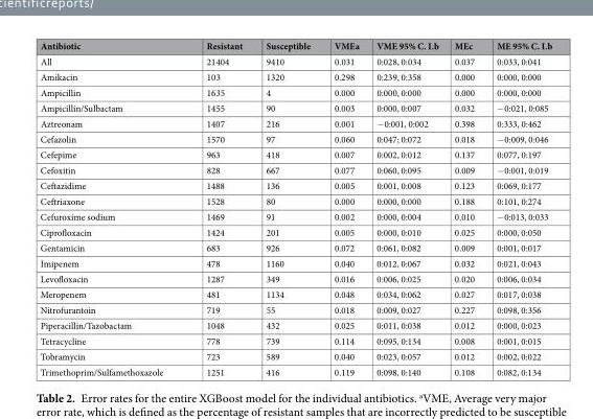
<table><thead><tr><td>Antibiotic</td><td>Resistant</td><td>Susceptible</td><td>VMEa</td><td>VME 95% C. I.b</td><td>MEc</td><td>ME 95% C. I.b</td></tr></thead><tbody><tr><td>All</td><td>21404</td><td>9410</td><td>0.031</td><td>0:028, 0:034</td><td>0.037</td><td>0:033, 0:041</td></tr><tr><td>Amikacin</td><td>103</td><td>1320</td><td>0.298</td><td>0:239, 0:358</td><td>0.000</td><td>0:000, 0:000</td></tr><tr><td>Ampicillin</td><td>1635</td><td>4</td><td>0.000</td><td>0:000, 0:000</td><td>0.000</td><td>0:000, 0:000</td></tr><tr><td>Ampicillin/Sulbactam</td><td>1455</td><td>90</td><td>0.003</td><td>0:000, 0:007</td><td>0.032</td><td>−0:021, 0:085</td></tr><tr><td>Aztreonam</td><td>1407</td><td>216</td><td>0.001</td><td>−0:001, 0:002</td><td>0.398</td><td>0:333, 0:462</td></tr><tr><td>Cefazolin</td><td>1570</td><td>97</td><td>0.060</td><td>0:047; 0:072</td><td>0.018</td><td>−0:009, 0:046</td></tr><tr><td>Cefepime</td><td>963</td><td>418</td><td>0.007</td><td>0:002, 0:012</td><td>0.137</td><td>0:077, 0:197</td></tr><tr><td>Cefoxitin</td><td>828</td><td>667</td><td>0.077</td><td>0:060, 0:095</td><td>0.009</td><td>−0:001, 0:019</td></tr><tr><td>Ceftazidime</td><td>1488</td><td>136</td><td>0.005</td><td>0:001, 0:008</td><td>0.123</td><td>0:069, 0:177</td></tr><tr><td>Ceftriaxone</td><td>1528</td><td>80</td><td>0.000</td><td>0:000, 0:000</td><td>0.188</td><td>0:101, 0:274</td></tr><tr><td>Cefuroxime sodium</td><td>1469</td><td>91</td><td>0.002</td><td>0:000, 0:004</td><td>0.010</td><td>−0:013, 0:033</td></tr><tr><td>Ciprofloxacin</td><td>1424</td><td>201</td><td>0.005</td><td>0:000, 0:010</td><td>0.025</td><td>0:000, 0:050</td></tr><tr><td>Gentamicin</td><td>683</td><td>926</td><td>0.072</td><td>0:061, 0:082</td><td>0.009</td><td>0:001, 0:017</td></tr><tr><td>Imipenem</td><td>478</td><td>1160</td><td>0.040</td><td>0:012, 0:067</td><td>0.032</td><td>0:021, 0:043</td></tr><tr><td>Levofloxacin</td><td>1287</td><td>349</td><td>0.016</td><td>0:006, 0:025</td><td>0.020</td><td>0:006, 0:034</td></tr><tr><td>Meropenem</td><td>481</td><td>1134</td><td>0.048</td><td>0:034, 0:062</td><td>0.027</td><td>0:017, 0:038</td></tr><tr><td>Nitrofurantoin</td><td>719</td><td>55</td><td>0.018</td><td>0:009, 0:027</td><td>0.227</td><td>0:098, 0:356</td></tr><tr><td>Piperacillin/Tazobactam</td><td>1048</td><td>432</td><td>0.025</td><td>0:011, 0:038</td><td>0.012</td><td>0:000, 0:023</td></tr><tr><td>Tetracycline</td><td>778</td><td>739</td><td>0.114</td><td>0:095, 0:134</td><td>0.008</td><td>0:001, 0:015</td></tr><tr><td>Tobramycin</td><td>723</td><td>589</td><td>0.040</td><td>0:023, 0:057</td><td>0.012</td><td>0:002, 0:022</td></tr><tr><td>Trimethoprim/Sulfamethoxazole</td><td>1251</td><td>416</td><td>0.119</td><td>0:098, 0:140</td><td>0.108</td><td>0:082, 0:134</td></tr></tbody></table>